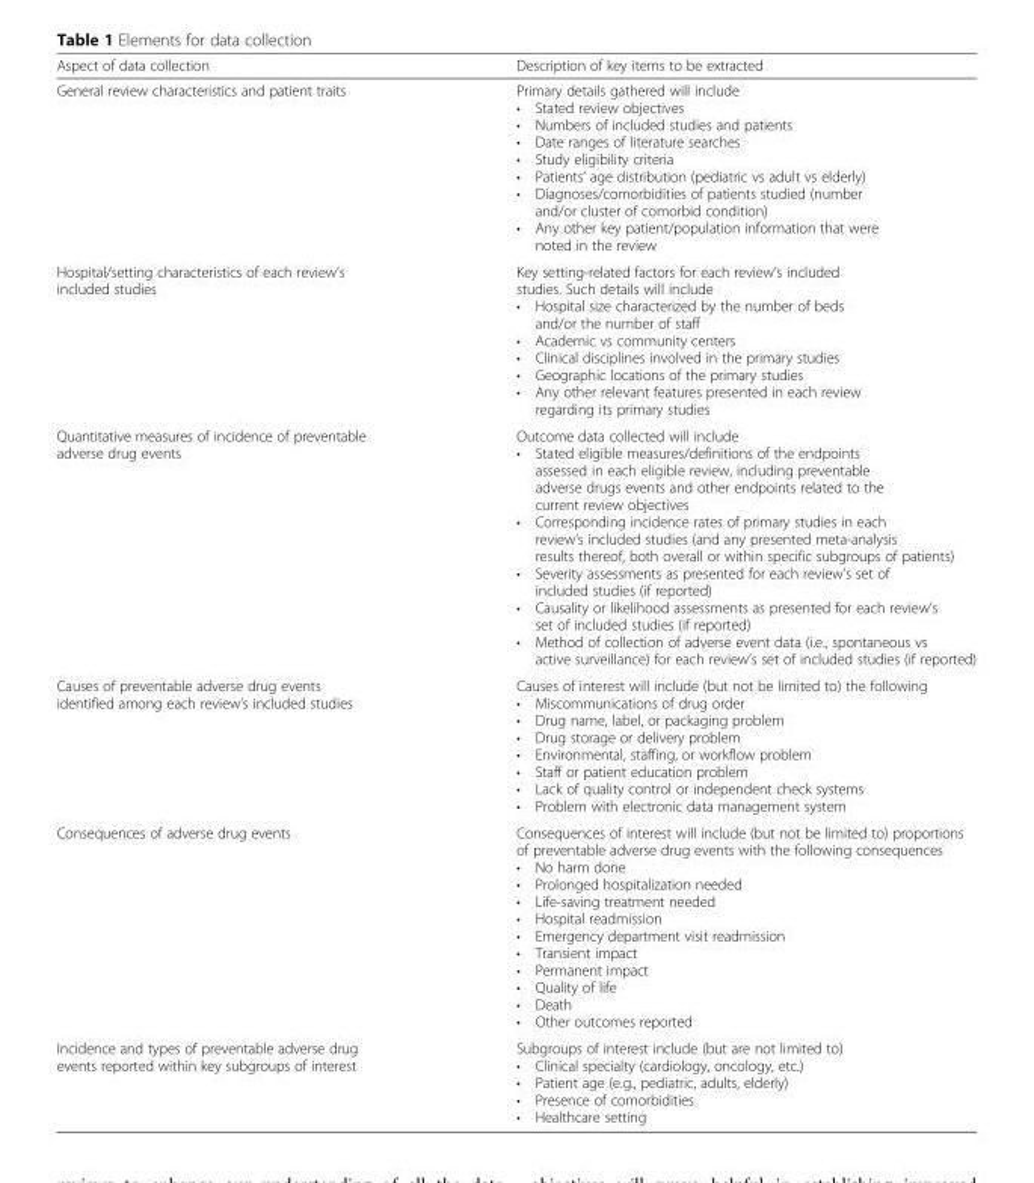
<table><thead><tr><td>Aspect of data collection</td><td>Description of key items to be extracted</td></tr></thead><tbody><tr><td>General review characteristics and patient traits</td><td>Primary details gathered will include • Stated review objectives • Numbers of included studies and patients • Date ranges of literature searches • Study eligibility criteria • Patients’ age distribution (pediatric vs adult vs elderly) • Diagnoses/comorbidities of patients studied (number and/or cluster of comorbid condition) • Any other key patient/population information that were noted in the review</td></tr><tr><td>Hospital/setting characteristics of each review’s included studies</td><td>Key setting-related factors for each review’s included studies. Such details will include • Hospital size characterized by the number of beds and/or the number of staff • Academic vs community centers • Clinical disciplines involved in the primary studies • Geographic locations of the primary studies • Any other relevant features presented in each review regarding its primary studies</td></tr><tr><td>Quantitative measures of incidence of preventable adverse drug events</td><td>Outcome data collected will include • Stated eligible measures/definitions of the endpoints assessed in each eligible review, including preventable adverse drugs events and other endpoints related to the current review objectives • Corresponding incidence rates of primary studies in each review’s included studies (and any presented meta-analysis results thereof, both overall or within specific subgroups of patients) • Severity assessments as presented for each review’s set of included studies (if reported) • Causality or likelihood assessments as presented for each review’s set of included studies (if reported) • Method of collection of adverse event data (i.e., spontaneous vs active surveillance) for each review’s set of included studies (if reported)</td></tr><tr><td>Causes of preventable adverse drug events identified among each review’s included studies</td><td>Causes of interest will include (but not be limited to) the following • Miscommunications of drug order • Drug name, label, or packaging problem • Drug storage or delivery problem • Environmental, staffing, or workflow problem • Staff or patient education problem • Lack of quality control or independent check systems • Problem with electronic data management system</td></tr><tr><td>Consequences of adverse drug events</td><td>Consequences of interest will include (but not be limited to) proportions of preventable adverse drug events with the following consequences • No harm done • Prolonged hospitalization needed • Life-saving treatment needed • Hospital readmission • Emergency department visit readmission • Transient impact • Permanent impact • Quality of life • Death • Other outcomes reported</td></tr><tr><td>Incidence and types of preventable adverse drug events reported within key subgroups of interest</td><td>Subgroups of interest include (but are not limited to) • Clinical specialty (cardiology, oncology, etc.) • Patient age (e.g., pediatric, adults, elderly) • Presence of comorbidities • Healthcare setting</td></tr></tbody></table>